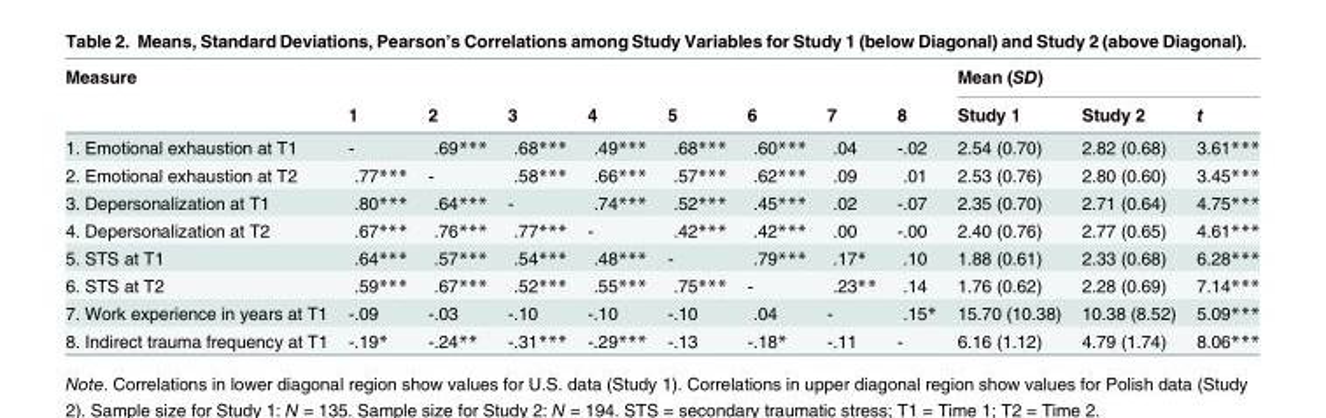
<table><thead><tr><td rowspan="2">Measure</td><td rowspan="2">1</td><td rowspan="2">2</td><td rowspan="2">3</td><td rowspan="2">4</td><td rowspan="2">5</td><td rowspan="2">6</td><td rowspan="2">7</td><td rowspan="2">8</td><td colspan="3">Mean (SD)</td></tr><tr><td>Study 1</td><td>Study 2</td><td>t</td></tr></thead><tbody><tr><td>1. Emotional exhaustion at T1</td><td>-</td><td>.69***</td><td>.68***</td><td>.49***</td><td>.68***</td><td>.60***</td><td>.04</td><td>-.02</td><td>2.54 (0.70)</td><td>2.82 (0.68)</td><td>3.61***</td></tr><tr><td>2. Emotional exhaustion at T2</td><td>.77***</td><td>-</td><td>.58***</td><td>.66***</td><td>.57***</td><td>.62***</td><td>.09</td><td>.01</td><td>2.53 (0.76)</td><td>2.80 (0.60)</td><td>3.45***</td></tr><tr><td>3. Depersonalization at T1</td><td>.80***</td><td>.64***</td><td>-</td><td>.74***</td><td>.52***</td><td>.45***</td><td>.02</td><td>-.07</td><td>2.35 (0.70)</td><td>2.71 (0.64)</td><td>4.75***</td></tr><tr><td>4. Depersonalization at T2</td><td>.67***</td><td>.76***</td><td>.77***</td><td>-</td><td>.42***</td><td>.42***</td><td>.00</td><td>-.00</td><td>2.40 (0.76)</td><td>2.77 (0.65)</td><td>4.61***</td></tr><tr><td>5. STS at T1</td><td>.64***</td><td>.57***</td><td>.54***</td><td>.48***</td><td>-</td><td>.79***</td><td>.17*</td><td>.10</td><td>1.88 (0.61)</td><td>2.33 (0.68)</td><td>6.28***</td></tr><tr><td>6. STS at T2</td><td>.59***</td><td>.67***</td><td>.52***</td><td>.55***</td><td>.75***</td><td>-</td><td>.23**</td><td>.14</td><td>1.76 (0.62)</td><td>2.28 (0.69)</td><td>7.14***</td></tr><tr><td>7. Work experience in years at T1</td><td>-.09</td><td>-.03</td><td>-.10</td><td>-.10</td><td>-.10</td><td>.04</td><td>-</td><td>.15*</td><td>15.70 (10.38)</td><td>10.38 (8.52)</td><td>5.09***</td></tr><tr><td>8. Indirect trauma frequency at T1</td><td>-.19*</td><td>-.24**</td><td>-.31***</td><td>-.29***</td><td>-.13</td><td>-.18*</td><td>-.11</td><td>-</td><td>6.16 (1.12)</td><td>4.79 (1.74)</td><td>8.06***</td></tr></tbody></table>